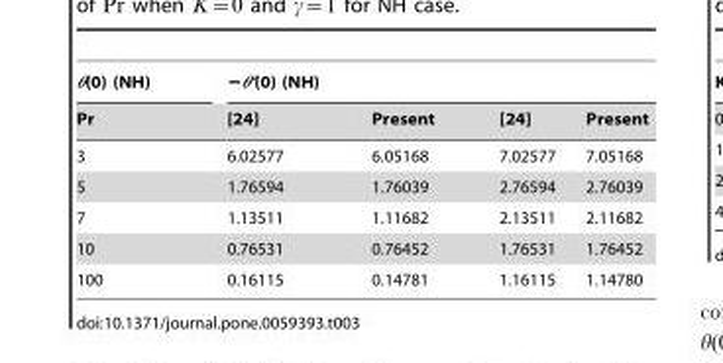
<table><thead><tr><td rowspan="2">θ(0) (NH) Pr</td><td colspan="4">−θ’(0) (NH)</td></tr><tr><td>[24]</td><td>Present</td><td>[24]</td><td>Present</td></tr></thead><tbody><tr><td>3</td><td>6.02577</td><td>6.05168</td><td>7.02577</td><td>7.05168</td></tr><tr><td>5</td><td>1.76594</td><td>1.76039</td><td>2.76594</td><td>2.76039</td></tr><tr><td>7</td><td>1.13511</td><td>1.11682</td><td>2.13511</td><td>2.11682</td></tr><tr><td>10</td><td>0.76531</td><td>0.76452</td><td>1.76531</td><td>1.76452</td></tr><tr><td>100</td><td>0.16115</td><td>0.14781</td><td>1.16115</td><td>1.14780</td></tr></tbody></table>